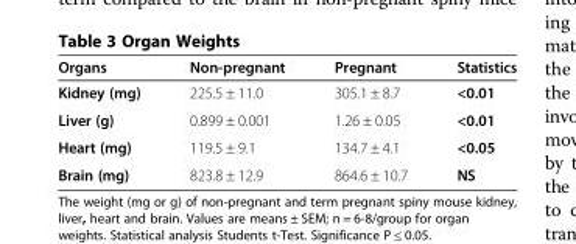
<table><thead><tr><td>Organs</td><td>Non-pregnant</td><td>Pregnant</td><td>Statistics</td></tr></thead><tbody><tr><td>Kidney (mg)</td><td>225.5 ± 11.0</td><td>305.1 ± 8.7</td><td>&lt;0.01</td></tr><tr><td>Liver (g)</td><td>0.899 ± 0.001</td><td>1.26 ± 0.05</td><td>&lt;0.01</td></tr><tr><td>Heart (mg)</td><td>119.5 ± 9.1</td><td>134.7 ± 4.1</td><td>&lt;0.05</td></tr><tr><td>Brain (mg)</td><td>823.8 ± 12.9</td><td>864.6 ± 10.7</td><td>NS</td></tr></tbody></table>